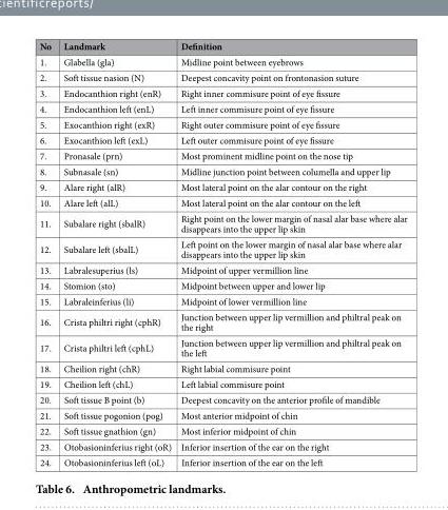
<table><thead><tr><td>No</td><td>Landmark</td><td>Definition</td></tr></thead><tbody><tr><td>1.</td><td>Glabella (gla)</td><td>Midline point between eyebrows</td></tr><tr><td>2.</td><td>Soft tissue nasion (N)</td><td>Deepest concavity point on frontonasion suture</td></tr><tr><td>3.</td><td>Endocanthion right (enR)</td><td>Right inner commisure point of eye fissure</td></tr><tr><td>4.</td><td>Endocanthion left (enL)</td><td>Left inner commisure point of eye fissure</td></tr><tr><td>5.</td><td>Exocanthion right (exR)</td><td>Right outer commisure point of eye fissure</td></tr><tr><td>6.</td><td>Exocanthion left (exL)</td><td>Left outer commisure point of eye fissure</td></tr><tr><td>7.</td><td>Pronasale (prn)</td><td>Most prominent midline point on the nose tip</td></tr><tr><td>8.</td><td>Subnasale (sn)</td><td>Midline junction point between columella and upper lip</td></tr><tr><td>9.</td><td>Alare right (alR)</td><td>Most lateral point on the alar contour on the right</td></tr><tr><td>10.</td><td>Alare left (alL)</td><td>Most lateral point on the alar contour on the left</td></tr><tr><td>11.</td><td>Subalare right (sbalR)</td><td>Right point on the lower margin of nasal alar base where alar disappears into the upper lip skin</td></tr><tr><td>12.</td><td>Subalare left (sbalL)</td><td>Left point on the lower margin of nasal alar base where alar disappears into the upper lip skin</td></tr><tr><td>13.</td><td>Labralesuperius (ls)</td><td>Midpoint of upper vermillion line</td></tr><tr><td>14.</td><td>Stomion (sto)</td><td>Midpoint between upper and lower lip</td></tr><tr><td>15.</td><td>Labraleinferius (li)</td><td>Midpoint of lower vermillion line</td></tr><tr><td>16.</td><td>Crista philtri right (cphR)</td><td>Junction between upper lip vermillion and philtral peak on the right</td></tr><tr><td>17.</td><td>Crista philtri left (cphL)</td><td>Junction between upper lip vermillion and philtral peak on the left</td></tr><tr><td>18.</td><td>Cheilion right (chR)</td><td>Right labial commisure point</td></tr><tr><td>19.</td><td>Cheilion left (chL)</td><td>Left labial commisure point</td></tr><tr><td>20.</td><td>Soft tissue B point (b)</td><td>Deepest concavity on the anterior profile of mandible</td></tr><tr><td>21.</td><td>Soft tissue pogonion (pog)</td><td>Most anterior midpoint of chin</td></tr><tr><td>22.</td><td>Soft tissue gnathion (gn)</td><td>Most inferior midpoint of chin</td></tr><tr><td>23.</td><td>Otobasioninferius right (oR)</td><td>Inferior insertion of the ear on the right</td></tr><tr><td>24.</td><td>Otobasioninferius left (oL)</td><td>Inferior insertion of the ear on the left</td></tr></tbody></table>